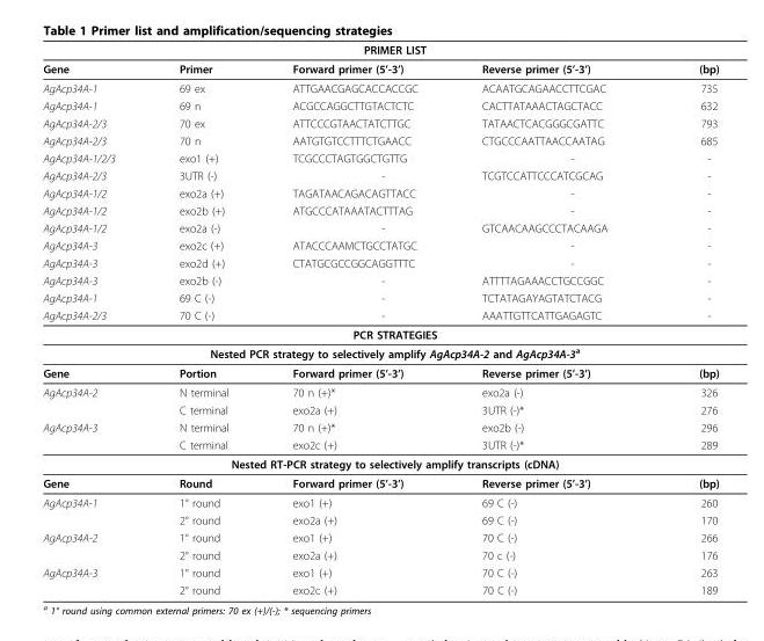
<table><thead><tr><td colspan="5">PRIMER LIST</td></tr><tr><td>Gene</td><td>Primer</td><td>Forward primer (5’-3’)</td><td>Reverse primer (5’-3’)</td><td>(bp)</td></tr></thead><tbody><tr><td>AgAcp34A-1</td><td>69 ex</td><td>ATTGAACGAGCACCACCGC</td><td>ACAATGCAGAACCTTCGAC</td><td>735</td></tr><tr><td>AgAcp34A-1</td><td>69 n</td><td>ACGCCAGGCTTGTACTCTC</td><td>CACTTATAAACTAGCTACC</td><td>632</td></tr><tr><td>AgAcp34A-2/3</td><td>70 ex</td><td>ATTCCCGTAACTATCTTGC</td><td>TATAACTCACGGGCGATTC</td><td>793</td></tr><tr><td>AgAcp34A-2/3</td><td>70 n</td><td>AATGTGTCCTTTCTGAACC</td><td>CTGCCCAATTAACCAATAG</td><td>685</td></tr><tr><td>AgAcp34A-1/2/3</td><td>exo1 (+)</td><td>TCGCCCTAGTGGCTGTTG</td><td>-</td><td>-</td></tr><tr><td>AgAcp34A-2/3</td><td>3UTR (-)</td><td>-</td><td>TCGTCCATTCCCATCGCAG</td><td>-</td></tr><tr><td>AgAcp34A-1/2</td><td>exo2a (+)</td><td>TAGATAACAGACAGTTACC</td><td>-</td><td>-</td></tr><tr><td>AgAcp34A-1/2</td><td>exo2b (+)</td><td>ATGCCCATAAATACTTTAG</td><td>-</td><td>-</td></tr><tr><td>AgAcp34A-1/2</td><td>exo2a (-)</td><td>-</td><td>GTCAACAAGCCCTACAAGA</td><td>-</td></tr><tr><td>AgAcp34A-3</td><td>exo2c (+)</td><td>ATACCCAAMCTGCCTATGC</td><td>-</td><td>-</td></tr><tr><td>AgAcp34A-3</td><td>exo2d (+)</td><td>CTATGCGCCGGCAGGTTTC</td><td>-</td><td>-</td></tr><tr><td>AgAcp34A-3</td><td>exo2b (-)</td><td>-</td><td>ATTTTAGAAACCTGCCGGC</td><td>-</td></tr><tr><td>AgAcp34A-1</td><td>69 C (-)</td><td>-</td><td>TCTATAGAYAGTATCTACG</td><td>-</td></tr><tr><td>AgAcp34A-2/3</td><td>70 C (-)</td><td>-</td><td>AAATTGTTCATTGAGAGTC</td><td>-</td></tr><tr><td colspan="5">PCR STRATEGIES</td></tr><tr><td colspan="5">Nested PCR strategy to selectively amplify AgAcp34A-2 and AgAcp34A-3<sup>a</sup></td></tr><tr><td>Gene</td><td>Portion</td><td>Forward primer (5’-3’)</td><td>Reverse primer (5’-3’)</td><td>(bp)</td></tr><tr><td rowspan="2">AgAcp34A-2</td><td>N terminal</td><td>70 n (+)*</td><td>exo2a (-)</td><td>326</td></tr><tr><td>C terminal</td><td>exo2a (+)</td><td>3UTR (-)*</td><td>276</td></tr><tr><td rowspan="2">AgAcp34A-3</td><td>N terminal</td><td>70 n (+)*</td><td>exo2b (-)</td><td>296</td></tr><tr><td>C terminal</td><td>exo2c (+)</td><td>3UTR (-)*</td><td>289</td></tr><tr><td colspan="5">Nested RT-PCR strategy to selectively amplify transcripts (cDNA)</td></tr><tr><td>Gene</td><td>Round</td><td>Forward primer (5’-3’)</td><td>Reverse primer (5’-3’)</td><td>(bp)</td></tr><tr><td rowspan="2">AgAcp34A-1</td><td>1° round</td><td>exo1 (+)</td><td>69 C (-)</td><td>260</td></tr><tr><td>2° round</td><td>exo2a (+)</td><td>69 C (-)</td><td>170</td></tr><tr><td rowspan="2">AgAcp34A-2</td><td>1° round</td><td>exo1 (+)</td><td>70 C (-)</td><td>266</td></tr><tr><td>2° round</td><td>exo2a (+)</td><td>70 c (-)</td><td>176</td></tr><tr><td rowspan="2">AgAcp34A-3</td><td>1° round</td><td>exo1 (+)</td><td>70 C (-)</td><td>263</td></tr><tr><td>2° round</td><td>exo2c (+)</td><td>70 C (-)</td><td>189</td></tr></tbody></table>